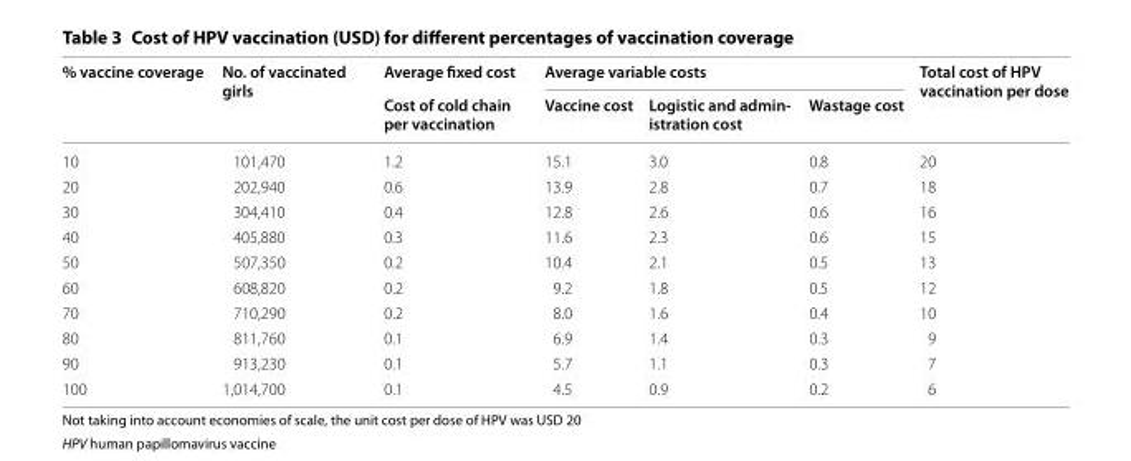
<table><thead><tr><td rowspan="2">% vaccine coverage</td><td rowspan="2">No. of vaccinated girls</td><td rowspan="2">Average fixed cost Cost of cold chain per vaccination</td><td colspan="3">Average variable costs</td><td rowspan="2">Total cost of HPV vaccination per dose</td></tr><tr><td>Vaccine cost</td><td>Logistic and admin- istration cost</td><td>Wastage cost</td></tr></thead><tbody><tr><td>10</td><td>101,470</td><td>1.2</td><td>15.1</td><td>3.0</td><td>0.8</td><td>20</td></tr><tr><td>20</td><td>202,940</td><td>0.6</td><td>13.9</td><td>2.8</td><td>0.7</td><td>18</td></tr><tr><td>30</td><td>304,410</td><td>0.4</td><td>12.8</td><td>2.6</td><td>0.6</td><td>16</td></tr><tr><td>40</td><td>405,880</td><td>0.3</td><td>11.6</td><td>2.3</td><td>0.6</td><td>15</td></tr><tr><td>50</td><td>507,350</td><td>0.2</td><td>10.4</td><td>2.1</td><td>0.5</td><td>13</td></tr><tr><td>60</td><td>608,820</td><td>0.2</td><td>9.2</td><td>1.8</td><td>0.5</td><td>12</td></tr><tr><td>70</td><td>710,290</td><td>0.2</td><td>8.0</td><td>1.6</td><td>0.4</td><td>10</td></tr><tr><td>80</td><td>811,760</td><td>0.1</td><td>6.9</td><td>1.4</td><td>0.3</td><td>9</td></tr><tr><td>90</td><td>913,230</td><td>0.1</td><td>5.7</td><td>1.1</td><td>0.3</td><td>7</td></tr><tr><td>100</td><td>1,014,700</td><td>0.1</td><td>4.5</td><td>0.9</td><td>0.2</td><td>6</td></tr></tbody></table>